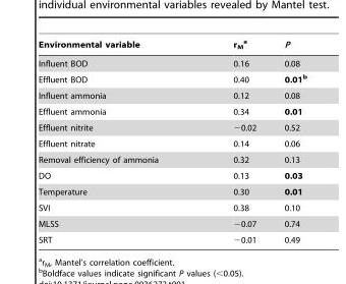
<table><thead><tr><td>Environmental variable</td><td>r<sub>M</sub> a</td><td>P</td></tr></thead><tbody><tr><td>Influent BOD</td><td>0.16</td><td>0.08</td></tr><tr><td>Effluent BOD</td><td>0.40</td><td>0.01b</td></tr><tr><td>Influent ammonia</td><td>0.12</td><td>0.08</td></tr><tr><td>Effluent ammonia</td><td>0.34</td><td>0.01</td></tr><tr><td>Effluent nitrite</td><td>−0.02</td><td>0.52</td></tr><tr><td>Effluent nitrate</td><td>0.14</td><td>0.06</td></tr><tr><td>Removal efficiency of ammonia</td><td>0.32</td><td>0.13</td></tr><tr><td>DO</td><td>0.13</td><td>0.03</td></tr><tr><td>Temperature</td><td>0.30</td><td>0.01</td></tr><tr><td>SVI</td><td>0.38</td><td>0.10</td></tr><tr><td>MLSS</td><td>−0.07</td><td>0.74</td></tr><tr><td>SRT</td><td>−0.01</td><td>0.49</td></tr></tbody></table>